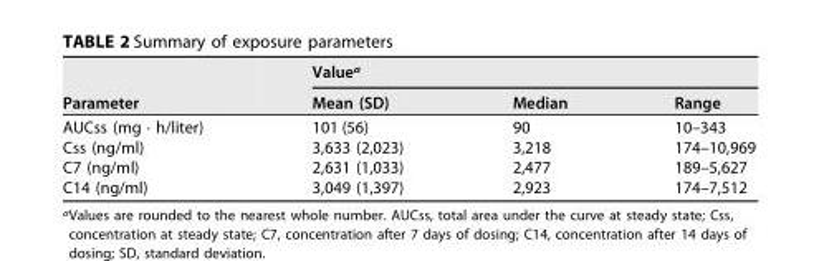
<table><thead><tr><td rowspan="2">Parameter</td><td colspan="3">Value<sup>a</sup></td></tr><tr><td>Mean (SD)</td><td>Median</td><td>Range</td></tr></thead><tbody><tr><td>AUCss (mg · h/liter)</td><td>101 (56)</td><td>90</td><td>10–343</td></tr><tr><td>Css (ng/ml)</td><td>3,633 (2,023)</td><td>3,218</td><td>174–10,969</td></tr><tr><td>C7 (ng/ml)</td><td>2,631 (1,033)</td><td>2,477</td><td>189–5,627</td></tr><tr><td>C14 (ng/ml)</td><td>3,049 (1,397)</td><td>2,923</td><td>174–7,512</td></tr></tbody></table>